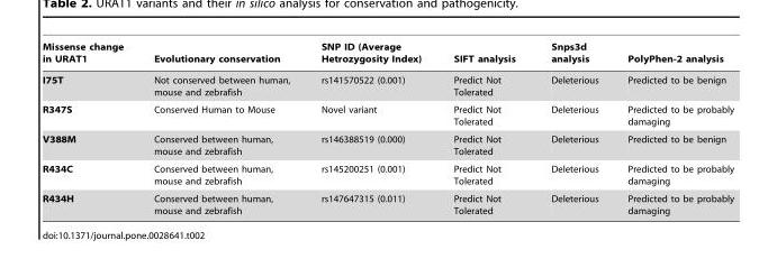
<table><thead><tr><td>Missense change in URAT1</td><td>Evolutionary conservation</td><td>SNP ID (Average Hetrozygosity Index)</td><td>SIFT analysis</td><td>Snps3d analysis</td><td>PolyPhen-2 analysis</td></tr></thead><tbody><tr><td>I75T</td><td>Not conserved between human, mouse and zebrafish</td><td>rs141570522 (0.001)</td><td>Predict Not Tolerated</td><td>Deleterious</td><td>Predicted to be benign</td></tr><tr><td>R347S</td><td>Conserved Human to Mouse</td><td>Novel variant</td><td>Predict Not Tolerated</td><td>Deleterious</td><td>Predicted to be probably damaging</td></tr><tr><td>V388M</td><td>Conserved between human, mouse and zebrafish</td><td>rs146388519 (0.000)</td><td>Predict Not Tolerated</td><td>Deleterious</td><td>Predicted to be benign</td></tr><tr><td>R434C</td><td>Conserved between human, mouse and zebrafish</td><td>rs145200251 (0.001)</td><td>Predict Not Tolerated</td><td>Deleterious</td><td>Predicted to be probably damaging</td></tr><tr><td>R434H</td><td>Conserved between human, mouse and zebrafish</td><td>rs147647315 (0.011)</td><td>Predict Not Tolerated</td><td>Deleterious</td><td>Predicted to be probably damaging</td></tr></tbody></table>